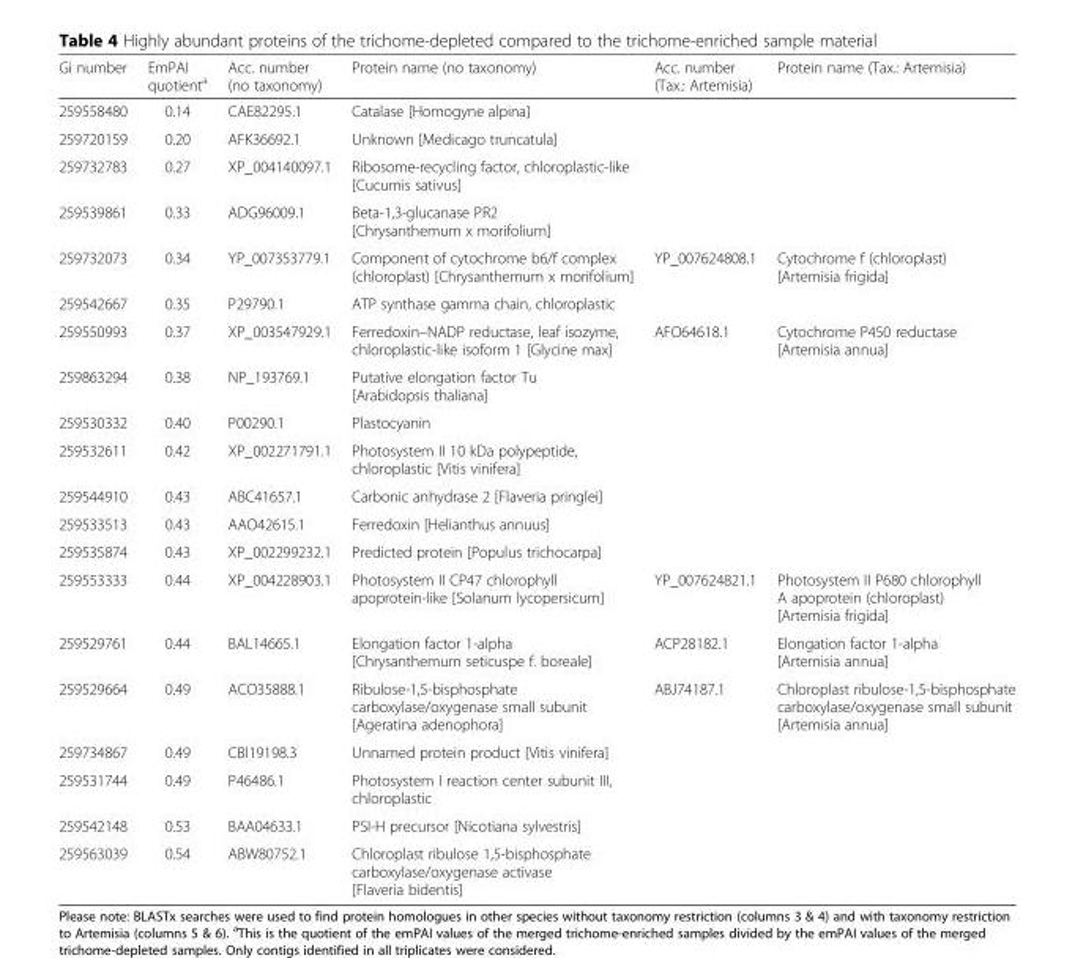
<table><thead><tr><td>Gi number</td><td>EmPAI quotient<sup>a</sup></td><td>Acc. number (no taxonomy)</td><td>Protein name (no taxonomy)</td><td>Acc. number (Tax.: Artemisia)</td><td>Protein name (Tax.: Artemisia)</td></tr></thead><tbody><tr><td>259558480</td><td>0.14</td><td>CAE82295.1</td><td>Catalase [Homogyne alpina]</td><td></td><td></td></tr><tr><td>259720159</td><td>0.20</td><td>AFK36692.1</td><td>Unknown [Medicago truncatula]</td><td></td><td></td></tr><tr><td>259732783</td><td>0.27</td><td>XP_004140097.1</td><td>Ribosome-recycling factor, chloroplastic-like [Cucumis sativus]</td><td></td><td></td></tr><tr><td>259539861</td><td>0.33</td><td>ADG96009.1</td><td>Beta-1,3-glucanase PR2 [Chrysanthemum x morifolium]</td><td></td><td></td></tr><tr><td>259732073</td><td>0.34</td><td>YP_007353779.1</td><td>Component of cytochrome b6/f complex (chloroplast) [Chrysanthemum x morifolium]</td><td>YP_007624808.1</td><td>Cytochrome f (chloroplast) [Artemisia frigida]</td></tr><tr><td>259542667</td><td>0.35</td><td>P29790.1</td><td>ATP synthase gamma chain, chloroplastic</td><td></td><td></td></tr><tr><td>259550993</td><td>0.37</td><td>XP_003547929.1</td><td>Ferredoxin–NADP reductase, leaf isozyme, chloroplastic-like isoform 1 [Glycine max]</td><td>AFO64618.1</td><td>Cytochrome P450 reductase [Artemisia annua]</td></tr><tr><td>259863294</td><td>0.38</td><td>NP_193769.1</td><td>Putative elongation factor Tu [Arabidopsis thaliana]</td><td></td><td></td></tr><tr><td>259530332</td><td>0.40</td><td>P00290.1</td><td>Plastocyanin</td><td></td><td></td></tr><tr><td>259532611</td><td>0.42</td><td>XP_002271791.1</td><td>Photosystem II 10 kDa polypeptide, chloroplastic [Vitis vinifera]</td><td></td><td></td></tr><tr><td>259544910</td><td>0.43</td><td>ABC41657.1</td><td>Carbonic anhydrase 2 [Flaveria pringlei]</td><td></td><td></td></tr><tr><td>259533513</td><td>0.43</td><td>AAO42615.1</td><td>Ferredoxin [Helianthus annuus]</td><td></td><td></td></tr><tr><td>259535874</td><td>0.43</td><td>XP_002299232.1</td><td>Predicted protein [Populus trichocarpa]</td><td></td><td></td></tr><tr><td>259553333</td><td>0.44</td><td>XP_004228903.1</td><td>Photosystem II CP47 chlorophyll apoprotein-like [Solanum lycopersicum]</td><td>YP_007624821.1</td><td>Photosystem II P680 chlorophyll A apoprotein (chloroplast) [Artemisia frigida]</td></tr><tr><td>259529761</td><td>0.44</td><td>BAL14665.1</td><td>Elongation factor 1-alpha [Chrysanthemum seticuspe f. boreale]</td><td>ACP28182.1</td><td>Elongation factor 1-alpha [Artemisia annua]</td></tr><tr><td>259529664</td><td>0.49</td><td>ACO35888.1</td><td>Ribulose-1,5-bisphosphate carboxylase/oxygenase small subunit [Ageratina adenophora]</td><td>ABJ74187.1</td><td>Chloroplast ribulose-1,5-bisphosphate carboxylase/oxygenase small subunit [Artemisia annua]</td></tr><tr><td>259734867</td><td>0.49</td><td>CBI19198.3</td><td>Unnamed protein product [Vitis vinifera]</td><td></td><td></td></tr><tr><td>259531744</td><td>0.49</td><td>P46486.1</td><td>Photosystem I reaction center subunit III, chloroplastic</td><td></td><td></td></tr><tr><td>259542148</td><td>0.53</td><td>BAA04633.1</td><td>PSI-H precursor [Nicotiana sylvestris]</td><td></td><td></td></tr><tr><td>259563039</td><td>0.54</td><td>ABW80752.1</td><td>Chloroplast ribulose 1,5-bisphosphate carboxylase/oxygenase activase [Flaveria bidentis]</td><td></td><td></td></tr></tbody></table>